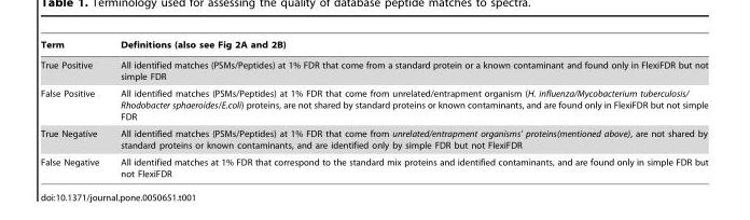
<table><thead><tr><td>Term</td><td>Definitions (also see Fig 2A and 2B)</td></tr></thead><tbody><tr><td>True Positive</td><td>All identified matches (PSMs/Peptides) at 1% FDR that come from a standard protein or a known contaminant and found only in FlexiFDR but not simple FDR</td></tr><tr><td>False Positive</td><td>All identified matches (PSMs/Peptides) at 1% FDR that come from unrelated/entrapment organism (H. influenza/Mycobacterium tuberculosis/ Rhodobacter sphaeroides/E.coli) proteins, are not shared by standard proteins or known contaminants, and are found only in FlexiFDR but not simple FDR</td></tr><tr><td>True Negative</td><td>All identified matches (PSMs/Peptides) at 1% FDR that come from unrelated/entrapment organisms’ proteins(mentioned above), are not shared by standard proteins or known contaminants, and are identified only by simple FDR but not FlexiFDR</td></tr><tr><td>False Negative</td><td>All identified matches at 1% FDR that correspond to the standard mix proteins and identified contaminants, and are found only in simple FDR but not FlexiFDR</td></tr></tbody></table>